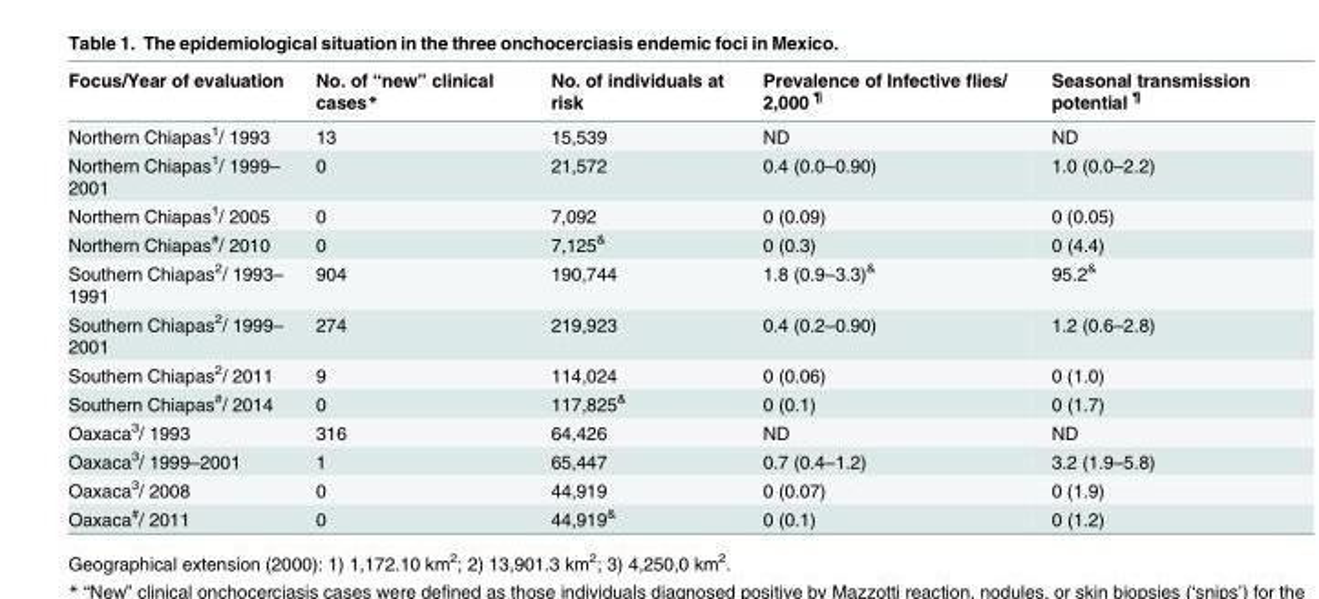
<table><thead><tr><td>Focus/Year of evaluation</td><td>No. of “new” clinical cases*</td><td>No. of individuals at risk</td><td>Prevalence of Infective flies/ 2,000 <sup>¶</sup></td><td>Seasonal transmission potential <sup>¶</sup></td></tr></thead><tbody><tr><td>Northern Chiapas<sup>1</sup>/ 1993</td><td>13</td><td>15,539</td><td>ND</td><td>ND</td></tr><tr><td>Northern Chiapas<sup>1</sup>/ 1999– 2001</td><td>0</td><td>21,572</td><td>0.4 (0.0–0.90)</td><td>1.0 (0.0–2.2)</td></tr><tr><td>Northern Chiapas<sup>1</sup>/ 2005</td><td>0</td><td>7,092</td><td>0 (0.09)</td><td>0 (0.05)</td></tr><tr><td>Northern Chiapas<sup>#</sup>/ 2010</td><td>0</td><td>7,125<sup>&amp;</sup></td><td>0 (0.3)</td><td>0 (4.4)</td></tr><tr><td>Southern Chiapas<sup>2</sup>/ 1993– 1991</td><td>904</td><td>190,744</td><td>1.8 (0.9–3.3)<sup>&amp;</sup></td><td>95.2<sup>&amp;</sup></td></tr><tr><td>Southern Chiapas<sup>2</sup>/ 1999– 2001</td><td>274</td><td>219,923</td><td>0.4 (0.2–0.90)</td><td>1.2 (0.6–2.8)</td></tr><tr><td>Southern Chiapas<sup>2</sup>/ 2011</td><td>9</td><td>114,024</td><td>0 (0.06)</td><td>0 (1.0)</td></tr><tr><td>Southern Chiapas<sup>#</sup>/ 2014</td><td>0</td><td>117,825<sup>&amp;</sup></td><td>0 (0.1)</td><td>0 (1.7)</td></tr><tr><td>Oaxaca<sup>3</sup>/ 1993</td><td>316</td><td>64,426</td><td>ND</td><td>ND</td></tr><tr><td>Oaxaca<sup>3</sup>/ 1999–2001</td><td>1</td><td>65,447</td><td>0.7 (0.4–1.2)</td><td>3.2 (1.9–5.8)</td></tr><tr><td>Oaxaca<sup>3</sup>/ 2008</td><td>0</td><td>44,919</td><td>0 (0.07)</td><td>0 (1.9)</td></tr><tr><td>Oaxaca<sup>#</sup>/ 2011</td><td>0</td><td>44,919<sup>&amp;</sup></td><td>0 (0.1)</td><td>0 (1.2)</td></tr></tbody></table>